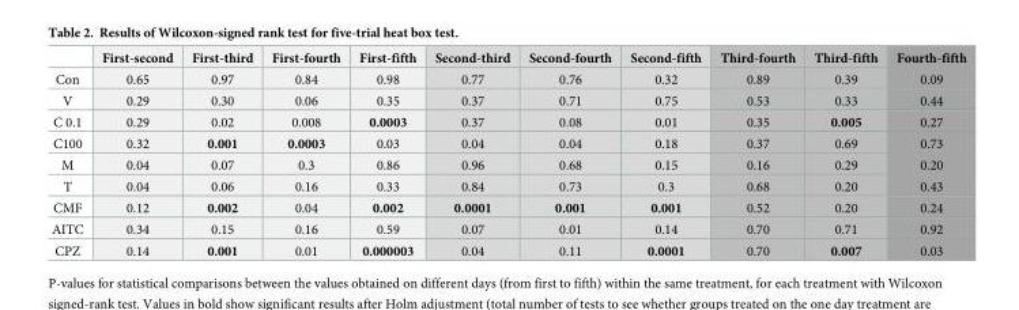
<table><thead><tr><td></td><td>First-second</td><td>First-third</td><td>First-fourth</td><td>First-fifth</td><td>Second-third</td><td>Second-fourth</td><td>Second-fifth</td><td>Third-fourth</td><td>Third-fifth</td><td>Fourth-fifth</td></tr></thead><tbody><tr><td>Con</td><td>0.65</td><td>0.97</td><td>0.84</td><td>0.98</td><td>0.77</td><td>0.76</td><td>0.32</td><td>0.89</td><td>0.39</td><td>0.09</td></tr><tr><td>V</td><td>0.29</td><td>0.30</td><td>0.06</td><td>0.35</td><td>0.37</td><td>0.71</td><td>0.75</td><td>0.53</td><td>0.33</td><td>0.44</td></tr><tr><td>C 0.1</td><td>0.29</td><td>0.02</td><td>0.008</td><td>0.0003</td><td>0.37</td><td>0.08</td><td>0.01</td><td>0.35</td><td>0.005</td><td>0.27</td></tr><tr><td>C100</td><td>0.32</td><td>0.001</td><td>0.0003</td><td>0.03</td><td>0.04</td><td>0.04</td><td>0.18</td><td>0.37</td><td>0.69</td><td>0.73</td></tr><tr><td>M</td><td>0.04</td><td>0.07</td><td>0.3</td><td>0.86</td><td>0.96</td><td>0.68</td><td>0.15</td><td>0.16</td><td>0.29</td><td>0.20</td></tr><tr><td>T</td><td>0.04</td><td>0.06</td><td>0.16</td><td>0.33</td><td>0.84</td><td>0.73</td><td>0.3</td><td>0.68</td><td>0.20</td><td>0.43</td></tr><tr><td>CMF</td><td>0.12</td><td>0.002</td><td>0.04</td><td>0.002</td><td>0.0001</td><td>0.001</td><td>0.001</td><td>0.52</td><td>0.20</td><td>0.24</td></tr><tr><td>AITC</td><td>0.34</td><td>0.15</td><td>0.16</td><td>0.59</td><td>0.07</td><td>0.01</td><td>0.14</td><td>0.70</td><td>0.71</td><td>0.92</td></tr><tr><td>CPZ</td><td>0.14</td><td>0.001</td><td>0.01</td><td>0.000003</td><td>0.04</td><td>0.11</td><td>0.0001</td><td>0.70</td><td>0.007</td><td>0.03</td></tr></tbody></table>